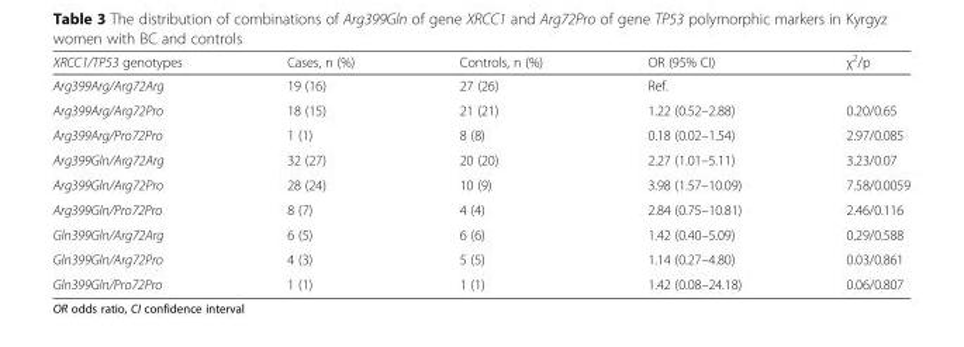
<table><thead><tr><td>XRCC1/TP53 genotypes</td><td>Cases, n (%)</td><td>Controls, n (%)</td><td>OR (95% CI)</td><td>χ<sup>2</sup>/р</td></tr></thead><tbody><tr><td>Arg399Arg/Arg72Arg</td><td>19 (16)</td><td>27 (26)</td><td>Ref.</td><td></td></tr><tr><td>Arg399Arg/Arg72Pro</td><td>18 (15)</td><td>21 (21)</td><td>1.22 (0.52–2.88)</td><td>0.20/0.65</td></tr><tr><td>Arg399Arg/Pro72Pro</td><td>1 (1)</td><td>8 (8)</td><td>0.18 (0.02–1.54)</td><td>2.97/0.085</td></tr><tr><td>Arg399Gln/Arg72Arg</td><td>32 (27)</td><td>20 (20)</td><td>2.27 (1.01–5.11)</td><td>3.23/0.07</td></tr><tr><td>Arg399Gln/Arg72Pro</td><td>28 (24)</td><td>10 (9)</td><td>3.98 (1.57–10.09)</td><td>7.58/0.0059</td></tr><tr><td>Arg399Gln/Pro72Pro</td><td>8 (7)</td><td>4 (4)</td><td>2.84 (0.75–10.81)</td><td>2.46/0.116</td></tr><tr><td>Gln399Gln/Arg72Arg</td><td>6 (5)</td><td>6 (6)</td><td>1.42 (0.40–5.09)</td><td>0.29/0.588</td></tr><tr><td>Gln399Gln/Arg72Pro</td><td>4 (3)</td><td>5 (5)</td><td>1.14 (0.27–4.80)</td><td>0.03/0.861</td></tr><tr><td>Gln399Gln/Pro72Pro</td><td>1 (1)</td><td>1 (1)</td><td>1.42 (0.08–24.18)</td><td>0.06/0.807</td></tr></tbody></table>